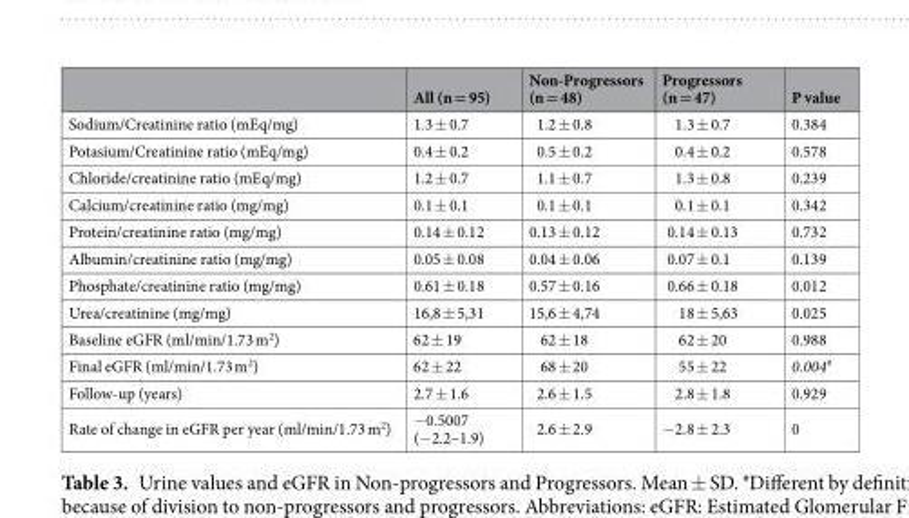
<table><thead><tr><td></td><td>All (n = 95)</td><td>Non-Progressors (n = 48)</td><td>Progressors (n = 47)</td><td>P value</td></tr></thead><tbody><tr><td>Sodium/Creatinine ratio (mEq/mg)</td><td>1.3 ± 0.7</td><td>1.2 ± 0.8</td><td>1.3 ± 0.7</td><td>0.384</td></tr><tr><td>Potasium/Creatinine ratio (mEq/mg)</td><td>0.4 ± 0.2</td><td>0.5 ± 0.2</td><td>0.4 ± 0.2</td><td>0.578</td></tr><tr><td>Chloride/creatinine ratio (mEq/mg)</td><td>1.2 ± 0.7</td><td>1.1 ± 0.7</td><td>1.3 ± 0.8</td><td>0.239</td></tr><tr><td>Calcium/creatinine ratio (mg/mg)</td><td>0.1 ± 0.1</td><td>0.1 ± 0.1</td><td>0.1 ± 0.1</td><td>0.342</td></tr><tr><td>Protein/creatinine ratio (mg/mg)</td><td>0.14 ± 0.12</td><td>0.13 ± 0.12</td><td>0.14 ± 0.13</td><td>0.732</td></tr><tr><td>Albumin/creatinine ratio (mg/mg)</td><td>0.05 ± 0.08</td><td>0.04 ± 0.06</td><td>0.07 ± 0.1</td><td>0.139</td></tr><tr><td>Phosphate/creatinine ratio (mg/mg)</td><td>0.61 ± 0.18</td><td>0.57 ± 0.16</td><td>0.66 ± 0.18</td><td>0.012</td></tr><tr><td>Urea/creatinine (mg/mg)</td><td>16,8 ± 5,31</td><td>15,6 ± 4,74</td><td>18 ± 5,63</td><td>0.025</td></tr><tr><td>Baseline eGFR (ml/min/1.73 m<sup>2</sup>)</td><td>62 ± 19</td><td>62 ± 18</td><td>62 ± 20</td><td>0.988</td></tr><tr><td>Final eGFR (ml/min/1.73 m<sup>2</sup>)</td><td>62 ± 22</td><td>68 ± 20</td><td>55 ± 22</td><td>0.004<sup>#</sup></td></tr><tr><td>Follow-up (years)</td><td>2.7 ± 1.6</td><td>2.6 ± 1.5</td><td>2.8 ± 1.8</td><td>0.929</td></tr><tr><td>Rate of change in eGFR per year (ml/min/1.73 m<sup>2</sup>)</td><td>−0.5007 (−2.2–1.9)</td><td>2.6 ± 2.9</td><td>−2.8 ± 2.3</td><td>0</td></tr></tbody></table>